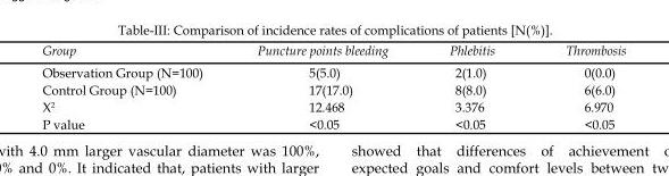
<table><thead><tr><td>Group</td><td>Puncture points bleeding</td><td>Phlebitis</td><td>Thrombosis</td></tr></thead><tbody><tr><td>Observation Group (N=100)</td><td>5(5.0)</td><td>2(1.0)</td><td>0(0.0)</td></tr><tr><td>Control Group (N=100)</td><td>17(17.0)</td><td>8(8.0)</td><td>6(6.0)</td></tr><tr><td>X<sup>2</sup></td><td>12.468</td><td>3.376</td><td>6.970</td></tr><tr><td>P value</td><td>&lt;0.05</td><td>&lt;0.05</td><td>&lt;0.05</td></tr></tbody></table>